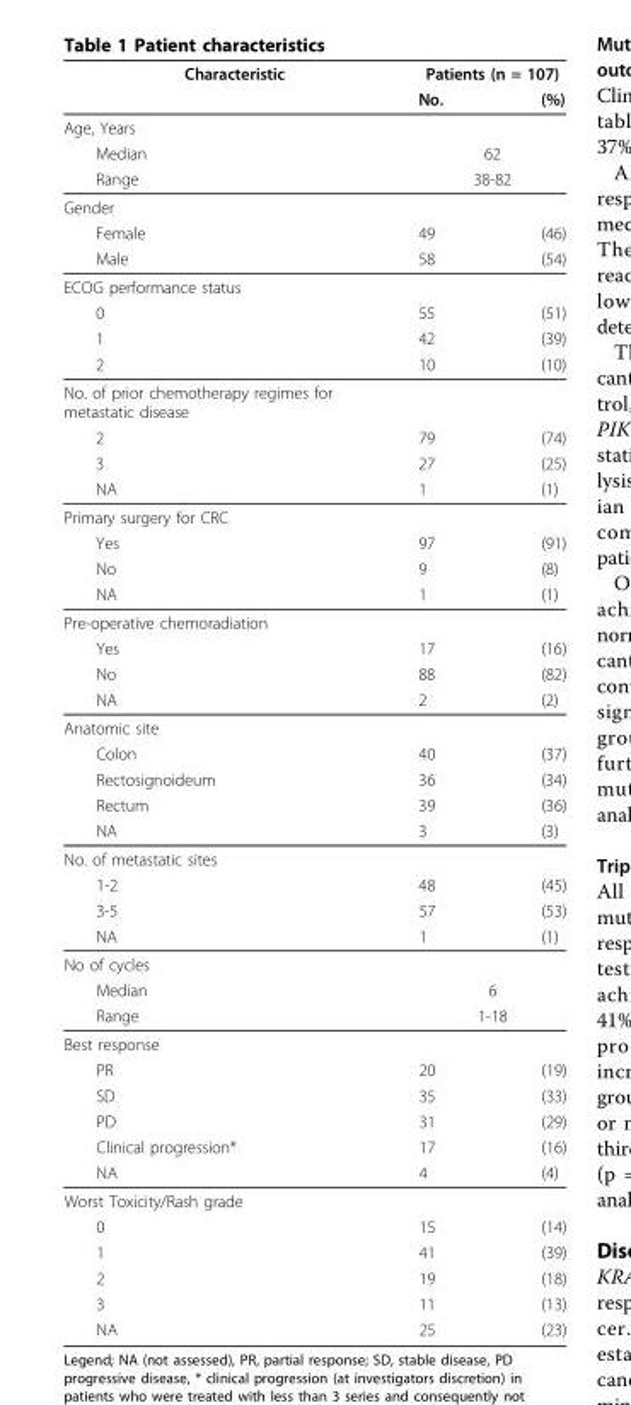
<table><thead><tr><td rowspan="2">Characteristic</td><td colspan="2">Patients (n = 107)</td></tr><tr><td>No.</td><td>(%)</td></tr></thead><tbody><tr><td colspan="3">Age, Years</td></tr><tr><td>Median</td><td colspan="2">62</td></tr><tr><td>Range</td><td colspan="2">38-82</td></tr><tr><td colspan="3">Gender</td></tr><tr><td>Female</td><td>49</td><td>(46)</td></tr><tr><td>Male</td><td>58</td><td>(54)</td></tr><tr><td colspan="3">ECOG performance status</td></tr><tr><td>0</td><td>55</td><td>(51)</td></tr><tr><td>1</td><td>42</td><td>(39)</td></tr><tr><td>2</td><td>10</td><td>(10)</td></tr><tr><td colspan="3">No. of prior chemotherapy regimes for metastatic disease</td></tr><tr><td>2</td><td>79</td><td>(74)</td></tr><tr><td>3</td><td>27</td><td>(25)</td></tr><tr><td>NA</td><td>1</td><td>(1)</td></tr><tr><td colspan="3">Primary surgery for CRC</td></tr><tr><td>Yes</td><td>97</td><td>(91)</td></tr><tr><td>No</td><td>9</td><td>(8)</td></tr><tr><td>NA</td><td>1</td><td>(1)</td></tr><tr><td colspan="3">Pre-operative chemoradiation</td></tr><tr><td>Yes</td><td>17</td><td>(16)</td></tr><tr><td>No</td><td>88</td><td>(82)</td></tr><tr><td>NA</td><td>2</td><td>(2)</td></tr><tr><td colspan="3">Anatomic site</td></tr><tr><td>Colon</td><td>40</td><td>(37)</td></tr><tr><td>Rectosignoideum</td><td>36</td><td>(34)</td></tr><tr><td>Rectum</td><td>39</td><td>(36)</td></tr><tr><td>NA</td><td>3</td><td>(3)</td></tr><tr><td colspan="3">No. of metastatic sites</td></tr><tr><td>1-2</td><td>48</td><td>(45)</td></tr><tr><td>3-5</td><td>57</td><td>(53)</td></tr><tr><td>NA</td><td>1</td><td>(1)</td></tr><tr><td colspan="3">No of cycles</td></tr><tr><td>Median</td><td colspan="2">6</td></tr><tr><td>Range</td><td colspan="2">1-18</td></tr><tr><td colspan="3">Best response</td></tr><tr><td>PR</td><td>20</td><td>(19)</td></tr><tr><td>SD</td><td>35</td><td>(33)</td></tr><tr><td>PD</td><td>31</td><td>(29)</td></tr><tr><td>Clinical progression*</td><td>17</td><td>(16)</td></tr><tr><td>NA</td><td>4</td><td>(4)</td></tr><tr><td colspan="3">Worst Toxicity/Rash grade</td></tr><tr><td>0</td><td>15</td><td>(14)</td></tr><tr><td>1</td><td>41</td><td>(39)</td></tr><tr><td>2</td><td>19</td><td>(18)</td></tr><tr><td>3</td><td>11</td><td>(13)</td></tr><tr><td>NA</td><td>25</td><td>(23)</td></tr></tbody></table>